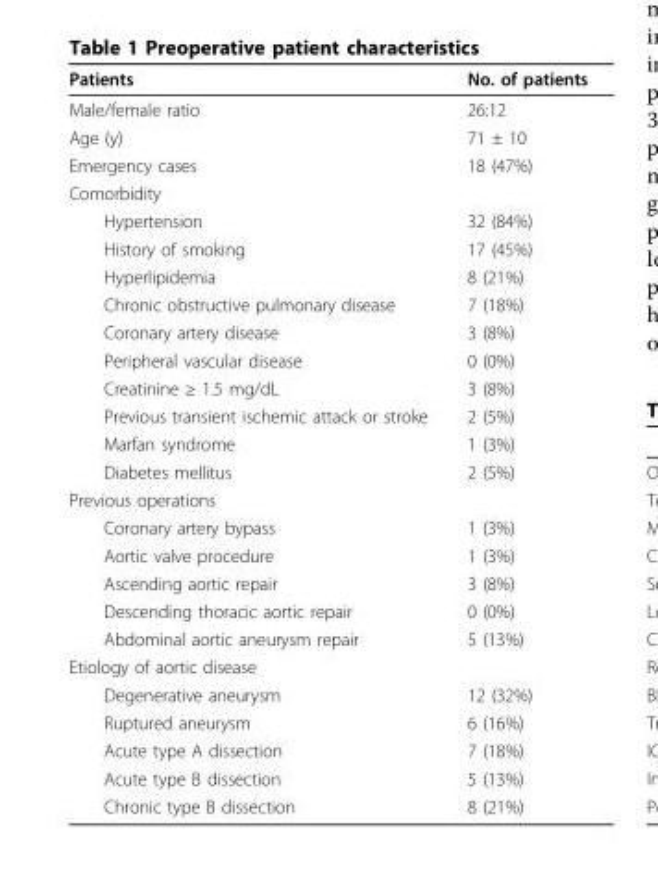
<table><thead><tr><td>Patients</td><td>No. of patients</td></tr></thead><tbody><tr><td>Male/female ratio</td><td>26:12</td></tr><tr><td>Age (y)</td><td>71 ± 10</td></tr><tr><td>Emergency cases</td><td>18 (47%)</td></tr><tr><td colspan="2">Comorbidity</td></tr><tr><td>Hypertension</td><td>32 (84%)</td></tr><tr><td>History of smoking</td><td>17 (45%)</td></tr><tr><td>Hyperlipidemia</td><td>8 (21%)</td></tr><tr><td>Chronic obstructive pulmonary disease</td><td>7 (18%)</td></tr><tr><td>Coronary artery disease</td><td>3 (8%)</td></tr><tr><td>Peripheral vascular disease</td><td>0 (0%)</td></tr><tr><td>Creatinine ≥ 1.5 mg/dL</td><td>3 (8%)</td></tr><tr><td>Previous transient ischemic attack or stroke</td><td>2 (5%)</td></tr><tr><td>Marfan syndrome</td><td>1 (3%)</td></tr><tr><td>Diabetes mellitus</td><td>2 (5%)</td></tr><tr><td colspan="2">Previous operations</td></tr><tr><td>Coronary artery bypass</td><td>1 (3%)</td></tr><tr><td>Aortic valve procedure</td><td>1 (3%)</td></tr><tr><td>Ascending aortic repair</td><td>3 (8%)</td></tr><tr><td>Descending thoracic aortic repair</td><td>0 (0%)</td></tr><tr><td>Abdominal aortic aneurysm repair</td><td>5 (13%)</td></tr><tr><td colspan="2">Etiology of aortic disease</td></tr><tr><td>Degenerative aneurysm</td><td>12 (32%)</td></tr><tr><td>Ruptured aneurysm</td><td>6 (16%)</td></tr><tr><td>Acute type A dissection</td><td>7 (18%)</td></tr><tr><td>Acute type B dissection</td><td>5 (13%)</td></tr><tr><td>Chronic type B dissection</td><td>8 (21%)</td></tr></tbody></table>